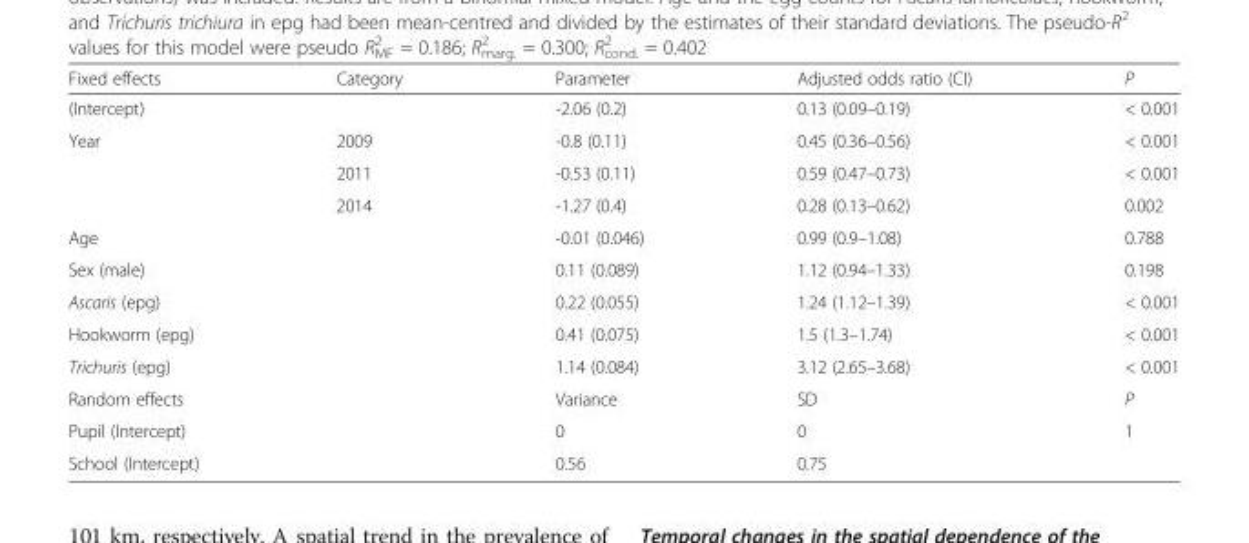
<table><thead><tr><td>Fixed effects</td><td>Category</td><td>Parameter</td><td>Adjusted odds ratio (CI)</td><td>P</td></tr></thead><tbody><tr><td colspan="2">(Intercept)</td><td>-2.06 (0.2)</td><td>0.13 (0.09–0.19)</td><td>&lt; 0.001</td></tr><tr><td rowspan="3">Year</td><td>2009</td><td>-0.8 (0.11)</td><td>0.45 (0.36–0.56)</td><td>&lt; 0.001</td></tr><tr><td>2011</td><td>-0.53 (0.11)</td><td>0.59 (0.47–0.73)</td><td>&lt; 0.001</td></tr><tr><td>2014</td><td>-1.27 (0.4)</td><td>0.28 (0.13–0.62)</td><td>0.002</td></tr><tr><td>Age</td><td></td><td>-0.01 (0.046)</td><td>0.99 (0.9–1.08)</td><td>0.788</td></tr><tr><td>Sex (male)</td><td></td><td>0.11 (0.089)</td><td>1.12 (0.94–1.33)</td><td>0.198</td></tr><tr><td colspan="2">Ascaris (epg)</td><td>0.22 (0.055)</td><td>1.24 (1.12–1.39)</td><td>&lt; 0.001</td></tr><tr><td colspan="2">Hookworm (epg)</td><td>0.41 (0.075)</td><td>1.5 (1.3–1.74)</td><td>&lt; 0.001</td></tr><tr><td colspan="2">Trichuris (epg)</td><td>1.14 (0.084)</td><td>3.12 (2.65–3.68)</td><td>&lt; 0.001</td></tr><tr><td>Random effects</td><td></td><td>Variance</td><td>SD</td><td>P</td></tr><tr><td colspan="2">Pupil (Intercept)</td><td>0</td><td>0</td><td>1</td></tr><tr><td colspan="2">School (Intercept)</td><td>0.56</td><td>0.75</td><td></td></tr></tbody></table>